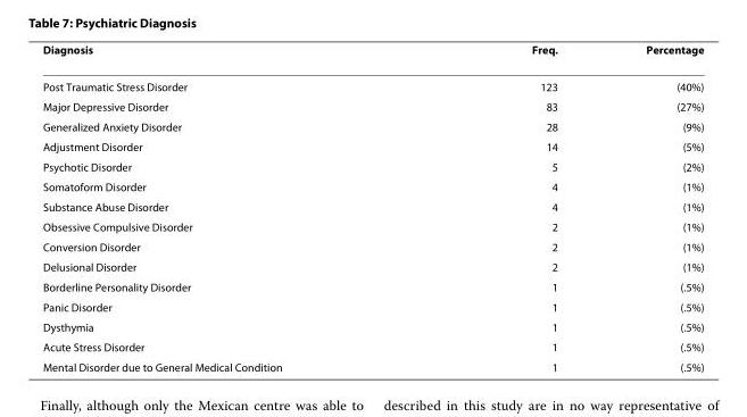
<table><thead><tr><td>Diagnosis</td><td>Freq.</td><td>Percentage</td></tr></thead><tbody><tr><td>Post Traumatic Stress Disorder</td><td>123</td><td>(40%)</td></tr><tr><td>Major Depressive Disorder</td><td>83</td><td>(27%)</td></tr><tr><td>Generalized Anxiety Disorder</td><td>28</td><td>(9%)</td></tr><tr><td>Adjustment Disorder</td><td>14</td><td>(5%)</td></tr><tr><td>Psychotic Disorder</td><td>5</td><td>(2%)</td></tr><tr><td>Somatoform Disorder</td><td>4</td><td>(1%)</td></tr><tr><td>Substance Abuse Disorder</td><td>4</td><td>(1%)</td></tr><tr><td>Obsessive Compulsive Disorder</td><td>2</td><td>(1%)</td></tr><tr><td>Conversion Disorder</td><td>2</td><td>(1%)</td></tr><tr><td>Delusional Disorder</td><td>2</td><td>(1%)</td></tr><tr><td>Borderline Personality Disorder</td><td>1</td><td>(.5%)</td></tr><tr><td>Panic Disorder</td><td>1</td><td>(.5%)</td></tr><tr><td>Dysthymia</td><td>1</td><td>(.5%)</td></tr><tr><td>Acute Stress Disorder</td><td>1</td><td>(.5%)</td></tr><tr><td>Mental Disorder due to General Medical Condition</td><td>1</td><td>(.5%)</td></tr></tbody></table>